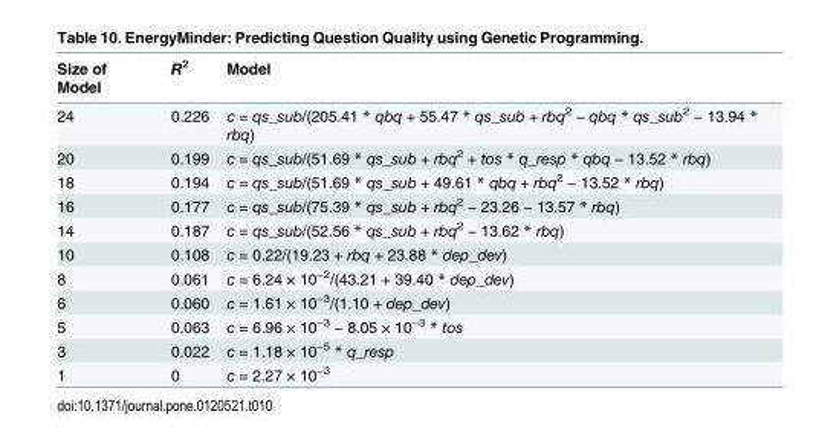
<table><thead><tr><td>Size of Model</td><td>R<sup>2</sup></td><td>Model</td></tr></thead><tbody><tr><td>24</td><td>0.226</td><td>c = qs_sub/(205.41 * qbq + 55.47 * qs_sub + rbq<sup>2</sup> − qbq * qs_sub<sup>2</sup> − 13.94 * rbq)</td></tr><tr><td>20</td><td>0.199</td><td>c = qs_sub/(51.69 * qs_sub + rbq<sup>2</sup> + tos * q_resp * qbq − 13.52 * rbq)</td></tr><tr><td>18</td><td>0.194</td><td>c = qs_sub/(51.69 * qs_sub + 49.61 * qbq + rbq<sup>2</sup> − 13.52 * rbq)</td></tr><tr><td>16</td><td>0.177</td><td>c = qs_sub/(75.39 * qs_sub + rbq<sup>2</sup> − 23.26 − 13.57 * rbq)</td></tr><tr><td>14</td><td>0.187</td><td>c = qs_sub/(52.56 * qs_sub + rbq<sup>2</sup> − 13.62 * rbq)</td></tr><tr><td>10</td><td>0.108</td><td>c = 0.22/(19.23 + rbq + 23.88 * dep_dev)</td></tr><tr><td>8</td><td>0.061</td><td>c = 6.24 × 10<sup>−2</sup>/(43.21 + 39.40 * dep_dev)</td></tr><tr><td>6</td><td>0.060</td><td>c = 1.61 × 10<sup>−3</sup>/(1.10 + dep_dev)</td></tr><tr><td>5</td><td>0.063</td><td>c = 6.96 × 10<sup>−3</sup> − 8.05 × 10<sup>−3</sup> * tos</td></tr><tr><td>3</td><td>0.022</td><td>c = 1.18 × 10<sup>−5</sup> * q_resp</td></tr><tr><td>1</td><td>0</td><td>c = 2.27 × 10<sup>−3</sup></td></tr></tbody></table>